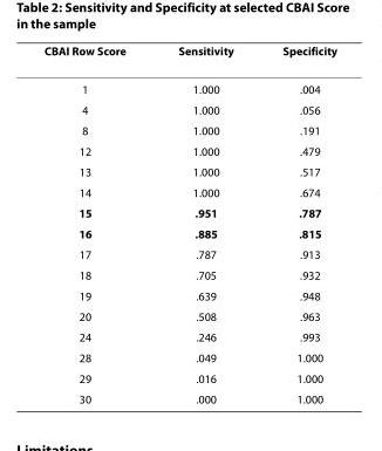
<table><thead><tr><td>CBAI Row Score</td><td>Sensitivity</td><td>Specificity</td></tr></thead><tbody><tr><td>1</td><td>1.000</td><td>.004</td></tr><tr><td>4</td><td>1.000</td><td>.056</td></tr><tr><td>8</td><td>1.000</td><td>.191</td></tr><tr><td>12</td><td>1.000</td><td>.479</td></tr><tr><td>13</td><td>1.000</td><td>.517</td></tr><tr><td>14</td><td>1.000</td><td>.674</td></tr><tr><td>15</td><td>.951</td><td>.787</td></tr><tr><td>16</td><td>.885</td><td>.815</td></tr><tr><td>17</td><td>.787</td><td>.913</td></tr><tr><td>18</td><td>.705</td><td>.932</td></tr><tr><td>19</td><td>.639</td><td>.948</td></tr><tr><td>20</td><td>.508</td><td>.963</td></tr><tr><td>24</td><td>.246</td><td>.993</td></tr><tr><td>28</td><td>.049</td><td>1.000</td></tr><tr><td>29</td><td>.016</td><td>1.000</td></tr><tr><td>30</td><td>.000</td><td>1.000</td></tr></tbody></table>